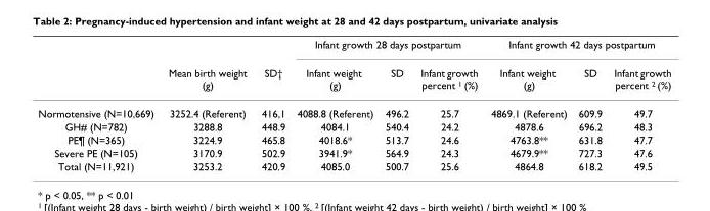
<table><thead><tr><td rowspan="2"></td><td rowspan="2">Mean birth weight (g)</td><td rowspan="2">SD†</td><td colspan="3">Infant growth 28 days postpartum</td><td colspan="3">Infant growth 42 days postpartum</td></tr><tr><td>Infant weight (g)</td><td>SD</td><td>Infant growth percent <sup>1</sup> (%)</td><td>Infant weight (g)</td><td>SD</td><td>Infant growth percent <sup>2</sup> (%)</td></tr></thead><tbody><tr><td>Normotensive (N=10,669)</td><td>3252.4 (Referent)</td><td>416,1</td><td>4088.8 (Referent)</td><td>496.2</td><td>25.7</td><td>4869.1 (Referent)</td><td>609.9</td><td>49.7</td></tr><tr><td>GH# (N=782)</td><td>3288.8</td><td>448.9</td><td>4084.1</td><td>540.4</td><td>24.2</td><td>4878.6</td><td>696.2</td><td>48.3</td></tr><tr><td>PE¶ (N=365)</td><td>3224.9</td><td>465.8</td><td>4018.6*</td><td>513.7</td><td>24.6</td><td>4763.8**</td><td>631.8</td><td>47.7</td></tr><tr><td>Severe PE (N=105)</td><td>3170.9</td><td>502.9</td><td>3941.9*</td><td>564.9</td><td>24.3</td><td>4679.9**</td><td>727.3</td><td>47.6</td></tr><tr><td>Total (N=11,921)</td><td>3253.2</td><td>420.9</td><td>4085.0</td><td>500.7</td><td>25.6</td><td>4864.8</td><td>618.2</td><td>49.5</td></tr></tbody></table>